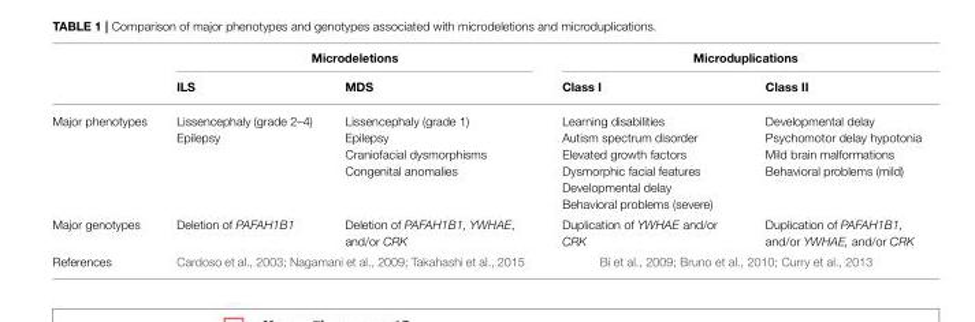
<table><thead><tr><td rowspan="2"></td><td colspan="2">Microdeletions</td><td colspan="2">Microduplications</td></tr><tr><td>ILS</td><td>MDS</td><td>Class I</td><td>Class II</td></tr></thead><tbody><tr><td>Major phenotypes</td><td>Lissencephaly (grade 2–4) Epilepsy</td><td>Lissencephaly (grade 1) Epilepsy Craniofacial dysmorphisms Congenital anomalies</td><td>Learning disabilities Autism spectrum disorder Elevated growth factors Dysmorphic facial features Developmental delay Behavioral problems (severe)</td><td>Developmental delay Psychomotor delay hypotonia Mild brain malformations Behavioral problems (mild)</td></tr><tr><td>Major genotypes</td><td>Deletion of PAFAH1B1</td><td>Deletion of PAFAH1B1, YWHAE, and/or CRK</td><td>Duplication of YWHAE and/or CRK</td><td>Duplication of PAFAH1B1, and/or YWHAE, and/or CRK</td></tr><tr><td>References</td><td colspan="2">Cardoso et al., 2003; Nagamani et al., 2009; Takahashi et al., 2015</td><td colspan="2">Bi et al., 2009; Bruno et al., 2010; Curry et al., 2013</td></tr></tbody></table>